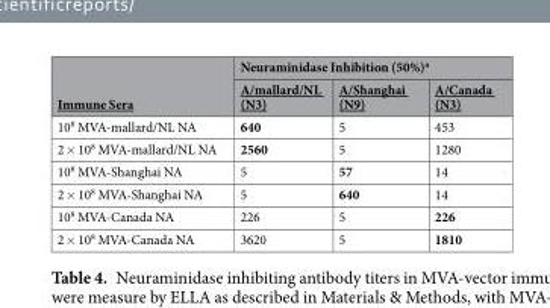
<table><thead><tr><td rowspan="2">Immune Sera</td><td colspan="3">Neuraminidase Inhibition (50%)<sup>a</sup></td></tr><tr><td>A/mallard/NL (N3)</td><td>A/Shanghai (N9)</td><td>A/Canada (N3)</td></tr></thead><tbody><tr><td>10<sup>8</sup> MVA-mallard/NL NA</td><td>640</td><td>5</td><td>453</td></tr><tr><td>2 × 10<sup>8</sup> MVA-mallard/NL NA</td><td>2560</td><td>5</td><td>1280</td></tr><tr><td>10<sup>8</sup> MVA-Shanghai NA</td><td>5</td><td>57</td><td>14</td></tr><tr><td>2 × 10<sup>8</sup> MVA-Shanghai NA</td><td>5</td><td>640</td><td>14</td></tr><tr><td>10<sup>8</sup> MVA-Canada NA</td><td>226</td><td>5</td><td>226</td></tr><tr><td>2 × 10<sup>8</sup> MVA-Canada NA</td><td>3620</td><td>5</td><td>1810</td></tr></tbody></table>